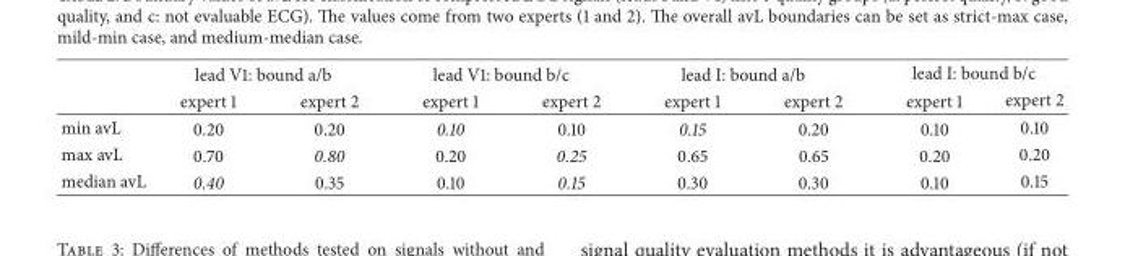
<table><thead><tr><td rowspan="2"></td><td colspan="2">lead V1: bound a/b</td><td colspan="2">lead V1: bound b/c</td><td colspan="2">lead I: bound a/b</td><td colspan="2">lead I: bound b/c</td></tr><tr><td>expert 1</td><td>expert 2</td><td>expert 1</td><td>expert 2</td><td>expert 1</td><td>expert 2</td><td>expert 1</td><td>expert 2</td></tr></thead><tbody><tr><td>min avL</td><td>0.20</td><td>0.20</td><td>0.10</td><td>0.10</td><td>0.15</td><td>0.20</td><td>0.10</td><td>0.10</td></tr><tr><td>max avL</td><td>0.70</td><td>0.80</td><td>0.20</td><td>0.25</td><td>0.65</td><td>0.65</td><td>0.20</td><td>0.20</td></tr><tr><td>median avL</td><td>0.40</td><td>0.35</td><td>0.10</td><td>0.15</td><td>0.30</td><td>0.30</td><td>0.10</td><td>0.15</td></tr></tbody></table>